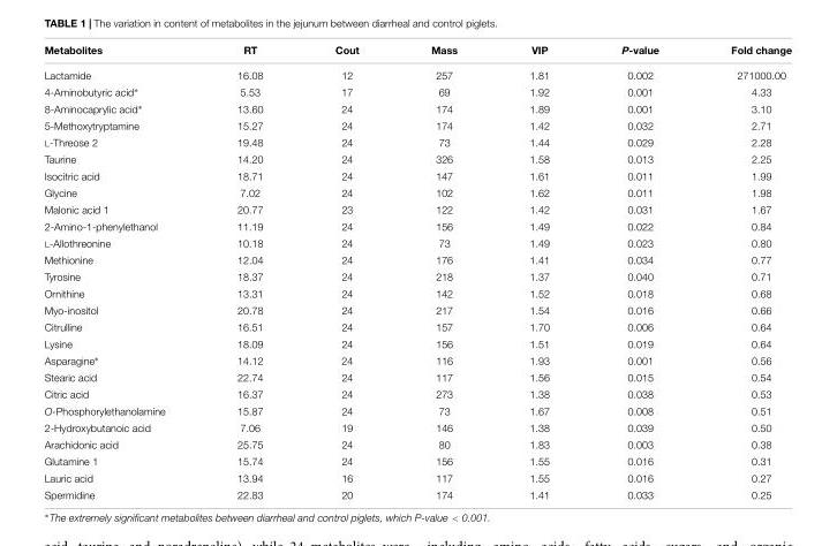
<table><thead><tr><td>Metabolites</td><td>RT</td><td>Cout</td><td>Mass</td><td>VIP</td><td>P-value</td><td>Fold change</td></tr></thead><tbody><tr><td>Lactamide</td><td>16.08</td><td>12</td><td>257</td><td>1.81</td><td>0.002</td><td>271000.00</td></tr><tr><td>4-Aminobutyric acid∗</td><td>5.53</td><td>17</td><td>69</td><td>1.92</td><td>0.001</td><td>4.33</td></tr><tr><td>8-Aminocaprylic acid∗</td><td>13.60</td><td>24</td><td>174</td><td>1.89</td><td>0.001</td><td>3.10</td></tr><tr><td>5-Methoxytryptamine</td><td>15.27</td><td>24</td><td>174</td><td>1.42</td><td>0.032</td><td>2.71</td></tr><tr><td>L-Threose 2</td><td>19.48</td><td>24</td><td>73</td><td>1.44</td><td>0.029</td><td>2.28</td></tr><tr><td>Taurine</td><td>14.20</td><td>24</td><td>326</td><td>1.58</td><td>0.013</td><td>2.25</td></tr><tr><td>Isocitric acid</td><td>18.71</td><td>24</td><td>147</td><td>1.61</td><td>0.011</td><td>1.99</td></tr><tr><td>Glycine</td><td>7.02</td><td>24</td><td>102</td><td>1.62</td><td>0.011</td><td>1.98</td></tr><tr><td>Malonic acid 1</td><td>20.77</td><td>23</td><td>122</td><td>1.42</td><td>0.031</td><td>1.67</td></tr><tr><td>2-Amino-1-phenylethanol</td><td>11.19</td><td>24</td><td>156</td><td>1.49</td><td>0.022</td><td>0.84</td></tr><tr><td>L-Allothreonine</td><td>10.18</td><td>24</td><td>73</td><td>1.49</td><td>0.023</td><td>0.80</td></tr><tr><td>Methionine</td><td>12.04</td><td>24</td><td>176</td><td>1.41</td><td>0.034</td><td>0.77</td></tr><tr><td>Tyrosine</td><td>18.37</td><td>24</td><td>218</td><td>1.37</td><td>0.040</td><td>0.71</td></tr><tr><td>Ornithine</td><td>13.31</td><td>24</td><td>142</td><td>1.52</td><td>0.018</td><td>0.68</td></tr><tr><td>Myo-inositol</td><td>20.78</td><td>24</td><td>217</td><td>1.54</td><td>0.016</td><td>0.66</td></tr><tr><td>Citrulline</td><td>16.51</td><td>24</td><td>157</td><td>1.70</td><td>0.006</td><td>0.64</td></tr><tr><td>Lysine</td><td>18.09</td><td>24</td><td>156</td><td>1.51</td><td>0.019</td><td>0.64</td></tr><tr><td>Asparagine∗</td><td>14.12</td><td>24</td><td>116</td><td>1.93</td><td>0.001</td><td>0.56</td></tr><tr><td>Stearic acid</td><td>22.74</td><td>24</td><td>117</td><td>1.56</td><td>0.015</td><td>0.54</td></tr><tr><td>Citric acid</td><td>16.37</td><td>24</td><td>273</td><td>1.38</td><td>0.038</td><td>0.53</td></tr><tr><td>O-Phosphorylethanolamine</td><td>15.87</td><td>24</td><td>73</td><td>1.67</td><td>0.008</td><td>0.51</td></tr><tr><td>2-Hydroxybutanoic acid</td><td>7.06</td><td>19</td><td>146</td><td>1.38</td><td>0.039</td><td>0.50</td></tr><tr><td>Arachidonic acid</td><td>25.75</td><td>24</td><td>80</td><td>1.83</td><td>0.003</td><td>0.38</td></tr><tr><td>Glutamine 1</td><td>15.74</td><td>24</td><td>156</td><td>1.55</td><td>0.016</td><td>0.31</td></tr><tr><td>Lauric acid</td><td>13.94</td><td>16</td><td>117</td><td>1.55</td><td>0.016</td><td>0.27</td></tr><tr><td>Spermidine</td><td>22.83</td><td>20</td><td>174</td><td>1.41</td><td>0.033</td><td>0.25</td></tr></tbody></table>